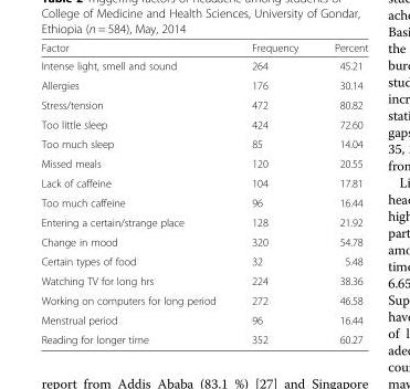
<table><thead><tr><td>Factor</td><td>Frequency</td><td>Percent</td></tr></thead><tbody><tr><td>Intense light, smell and sound</td><td>264</td><td>45.21</td></tr><tr><td>Allergies</td><td>176</td><td>30.14</td></tr><tr><td>Stress/tension</td><td>472</td><td>80.82</td></tr><tr><td>Too little sleep</td><td>424</td><td>72.60</td></tr><tr><td>Too much sleep</td><td>85</td><td>14.04</td></tr><tr><td>Missed meals</td><td>120</td><td>20.55</td></tr><tr><td>Lack of caffeine</td><td>104</td><td>17.81</td></tr><tr><td>Too much caffeine</td><td>96</td><td>16.44</td></tr><tr><td>Entering a certain/strange place</td><td>128</td><td>21.92</td></tr><tr><td>Change in mood</td><td>320</td><td>54.78</td></tr><tr><td>Certain types of food</td><td>32</td><td>5.48</td></tr><tr><td>Watching TV for long hrs</td><td>224</td><td>38.36</td></tr><tr><td>Working on computers for long period</td><td>272</td><td>46.58</td></tr><tr><td>Menstrual period</td><td>96</td><td>16.44</td></tr><tr><td>Reading for longer time</td><td>352</td><td>60.27</td></tr></tbody></table>